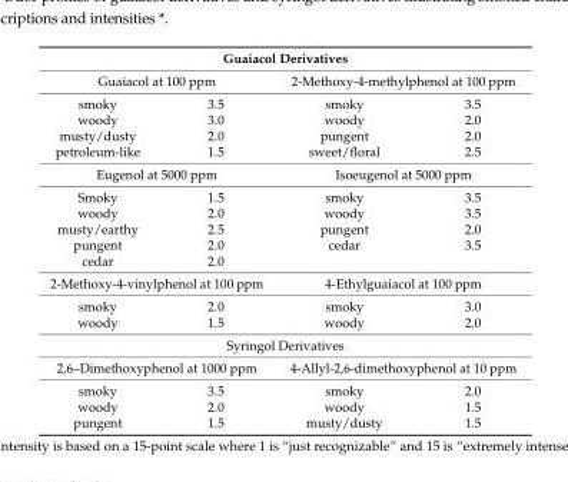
<table><thead><tr><td colspan="4">Guaiacol Derivatives</td></tr><tr><td colspan="2">Guaiacol at 100 ppm</td><td colspan="2">2-Methoxy-4-methylphenol at 100 ppm</td></tr><tr><td>smoky</td><td>3.5</td><td>smoky</td><td>3.5</td></tr></thead><tbody><tr><td>woody</td><td>3.0</td><td>woody</td><td>2.0</td></tr><tr><td>musty/dusty</td><td>2.0</td><td>pungent</td><td>2.0</td></tr><tr><td>petroleum-like</td><td>1.5</td><td>sweet/floral</td><td>2.5</td></tr><tr><td colspan="2">Eugenol at 5000 ppm</td><td colspan="2">Isoeugenol at 5000 ppm</td></tr><tr><td>Smoky</td><td>1.5</td><td>smoky</td><td>3.5</td></tr><tr><td>woody</td><td>2.0</td><td>woody</td><td>3.5</td></tr><tr><td>musty/earthy</td><td>2.5</td><td>pungent</td><td>2.0</td></tr><tr><td>pungent</td><td>2.0</td><td>cedar</td><td>3.5</td></tr><tr><td>cedar</td><td>2.0</td><td></td><td></td></tr><tr><td colspan="2">2-Methoxy-4-vinylphenol at 100 ppm</td><td colspan="2">4-Ethylguaiacol at 100 ppm</td></tr><tr><td>smoky</td><td>2.0</td><td>smoky</td><td>3.0</td></tr><tr><td>woody</td><td>1.5</td><td>woody</td><td>2.0</td></tr><tr><td colspan="4">Syringol Derivatives</td></tr><tr><td colspan="2">2,6–Dimethoxyphenol at 1000 ppm</td><td colspan="2">4-Allyl-2,6-dimethoxyphenol at 10 ppm</td></tr><tr><td>smoky</td><td>3.5</td><td>smoky</td><td>2.0</td></tr><tr><td>woody</td><td>2.0</td><td>woody</td><td>1.5</td></tr><tr><td>pungent</td><td>1.5</td><td>musty/dusty</td><td>1.5</td></tr></tbody></table>